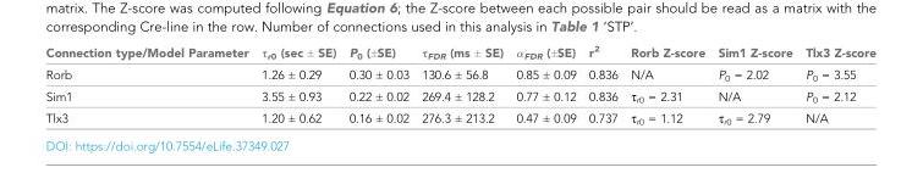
<table><thead><tr><td>Connection type/Model Parameter</td><td>𝜏<sub>r0</sub> (sec ± SE)</td><td>P<sub>0</sub> (±SE)</td><td>𝜏<sub>FDR</sub> (ms ± SE)</td><td>α<sub>FDR</sub> (±SE)</td><td>r<sup>2</sup></td><td>Rorb Z-score</td><td>Sim1 Z-score</td><td>Tlx3 Z-score</td></tr></thead><tbody><tr><td>Rorb</td><td>1.26 ± 0.29</td><td>0.30 ± 0.03</td><td>130.6 ± 56.8</td><td>0.85 ± 0.09</td><td>0.836</td><td>N/A</td><td>P<sub>0</sub> = 2.02</td><td>P<sub>0</sub> = 3.55</td></tr><tr><td>Sim1</td><td>3.55 ± 0.93</td><td>0.22 ± 0.02</td><td>269.4 ± 128.2</td><td>0.77 ± 0.12</td><td>0.836</td><td>𝜏<sub>r0</sub> = 2.31</td><td>N/A</td><td>P<sub>0</sub> = 2.12</td></tr><tr><td>Tlx3</td><td>1.20 ± 0.62</td><td>0.16 ± 0.02</td><td>276.3 ± 213.2</td><td>0.47 ± 0.09</td><td>0.737</td><td>𝜏<sub>r0</sub> = 1.12</td><td>𝜏<sub>r0</sub> = 2.79</td><td>N/A</td></tr></tbody></table>